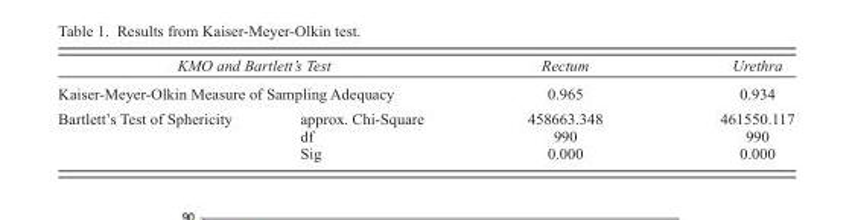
<table><thead><tr><td rowspan="2" colspan="2">KMO and Bartlett’s Test Kaiser-Meyer-Olkin Measure of Sampling Adequacy</td><td rowspan="3">Rectum 0.965 458663.348</td><td rowspan="3">Urethra 0.934 461550.117</td></tr><tr></tr><tr><td>Bartlett’s Test of Sphericity</td><td>approx. Chi-Square</td></tr></thead><tbody><tr><td></td><td>df</td><td>990</td><td>990</td></tr><tr><td></td><td>Sig</td><td>0.000</td><td>0.000</td></tr></tbody></table>